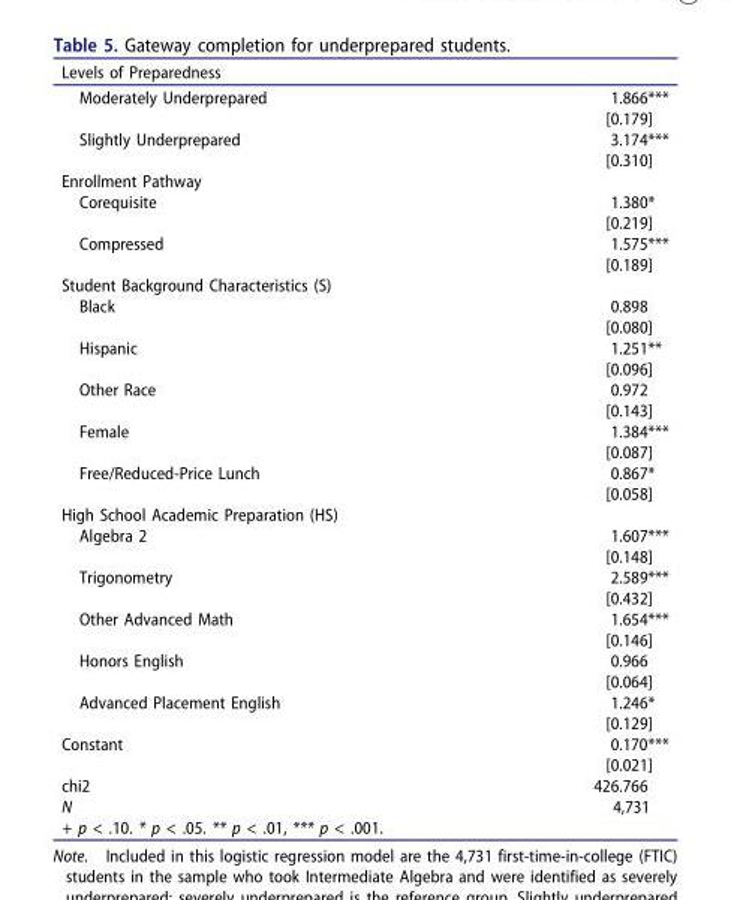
<table><thead><tr><td>Levels of Preparedness</td><td></td></tr></thead><tbody><tr><td rowspan="2">Moderately Underprepared</td><td>1.866***</td></tr><tr><td>[0.179]</td></tr><tr><td rowspan="2">Slightly Underprepared</td><td>3.174***</td></tr><tr><td>[0.310]</td></tr><tr><td colspan="2">Enrollment Pathway</td></tr><tr><td rowspan="2">Corequisite</td><td>1.380*</td></tr><tr><td>[0.219]</td></tr><tr><td rowspan="2">Compressed</td><td>1.575***</td></tr><tr><td>[0.189]</td></tr><tr><td colspan="2">Student Background Characteristics (S)</td></tr><tr><td rowspan="2">Black</td><td>0.898</td></tr><tr><td>[0.080]</td></tr><tr><td rowspan="2">Hispanic</td><td>1.251**</td></tr><tr><td>[0.096]</td></tr><tr><td rowspan="2">Other Race</td><td>0.972</td></tr><tr><td>[0.143]</td></tr><tr><td rowspan="2">Female</td><td>1.384***</td></tr><tr><td>[0.087]</td></tr><tr><td rowspan="2">Free/Reduced-Price Lunch</td><td>0.867*</td></tr><tr><td>[0.058]</td></tr><tr><td colspan="2">High School Academic Preparation (HS)</td></tr><tr><td rowspan="2">Algebra 2</td><td>1.607***</td></tr><tr><td>[0.148]</td></tr><tr><td rowspan="2">Trigonometry</td><td>2.589***</td></tr><tr><td>[0.432]</td></tr><tr><td rowspan="2">Other Advanced Math</td><td>1.654***</td></tr><tr><td>[0.146]</td></tr><tr><td rowspan="2">Honors English</td><td>0.966</td></tr><tr><td>[0.064]</td></tr><tr><td rowspan="2">Advanced Placement English</td><td>1.246*</td></tr><tr><td>[0.129]</td></tr><tr><td rowspan="2">Constant</td><td>0.170***</td></tr><tr><td>[0.021]</td></tr><tr><td>chi2</td><td>426.766</td></tr><tr><td>N</td><td>4,731</td></tr><tr><td>+ p &lt; .10. * p &lt; .05. ** p &lt; .01, *** p &lt; .001.</td><td></td></tr></tbody></table>